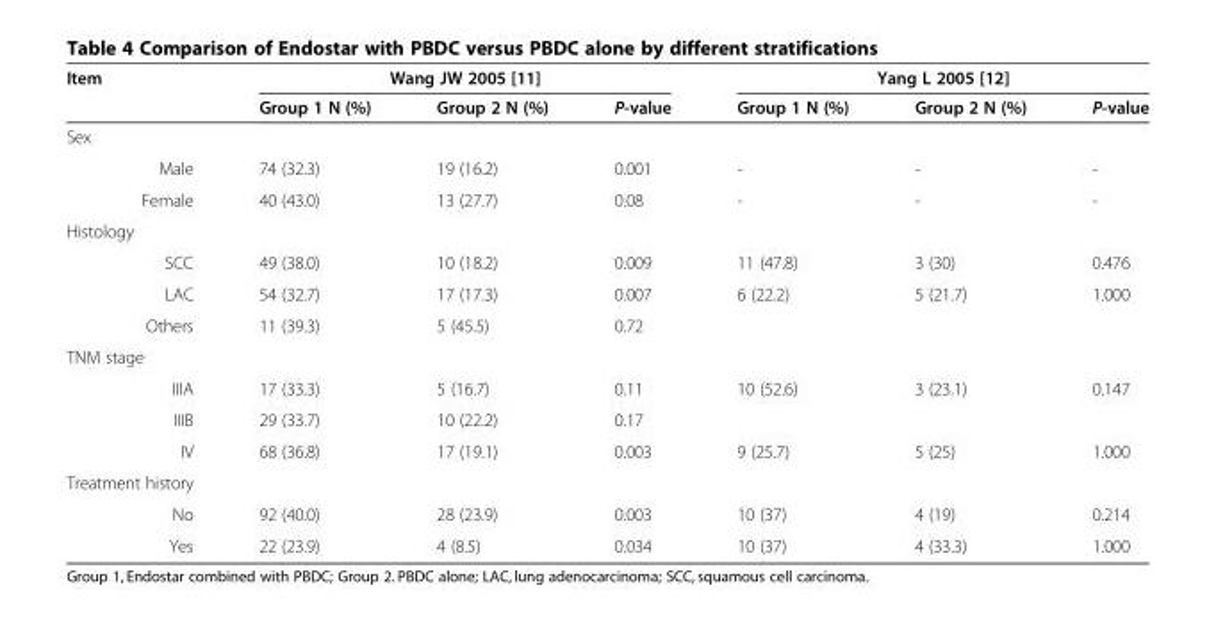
<table><thead><tr><td rowspan="2">Item</td><td colspan="3">Wang JW 2005 [11]</td><td colspan="3">Yang L 2005 [12]</td></tr><tr><td>Group 1 N (%)</td><td>Group 2 N (%)</td><td>P-value</td><td>Group 1 N (%)</td><td>Group 2 N (%)</td><td>P-value</td></tr></thead><tbody><tr><td colspan="7">Sex</td></tr><tr><td>Male</td><td>74 (32.3)</td><td>19 (16.2)</td><td>0.001</td><td>-</td><td>-</td><td>-</td></tr><tr><td>Female</td><td>40 (43.0)</td><td>13 (27.7)</td><td>0.08</td><td>-</td><td>-</td><td>-</td></tr><tr><td colspan="7">Histology</td></tr><tr><td>SCC</td><td>49 (38.0)</td><td>10 (18.2)</td><td>0.009</td><td>11 (47.8)</td><td>3 (30)</td><td>0.476</td></tr><tr><td>LAC</td><td>54 (32.7)</td><td>17 (17.3)</td><td>0.007</td><td>6 (22.2)</td><td>5 (21.7)</td><td>1.000</td></tr><tr><td>Others</td><td>11 (39.3)</td><td>5 (45.5)</td><td>0.72</td><td></td><td></td><td></td></tr><tr><td colspan="7">TNM stage</td></tr><tr><td>IIIA</td><td>17 (33.3)</td><td>5 (16.7)</td><td>0.11</td><td rowspan="2">10 (52.6)</td><td rowspan="2">3 (23.1)</td><td rowspan="2">0.147</td></tr><tr><td>IIIB</td><td>29 (33.7)</td><td>10 (22.2)</td><td>0.17</td></tr><tr><td>IV</td><td>68 (36.8)</td><td>17 (19.1)</td><td>0.003</td><td>9 (25.7)</td><td>5 (25)</td><td>1.000</td></tr><tr><td colspan="7">Treatment history</td></tr><tr><td>No</td><td>92 (40.0)</td><td>28 (23.9)</td><td>0.003</td><td>10 (37)</td><td>4 (19)</td><td>0.214</td></tr><tr><td>Yes</td><td>22 (23.9)</td><td>4 (8.5)</td><td>0.034</td><td>10 (37)</td><td>4 (33.3)</td><td>1.000</td></tr></tbody></table>